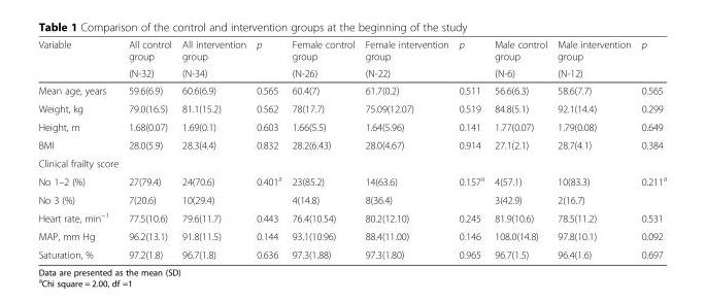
<table><thead><tr><td rowspan="2">Variable</td><td rowspan="2">All control group (N-32)</td><td rowspan="2">All intervention group (N-34)</td><td rowspan="2">p</td><td rowspan="2">Female control group (N-26)</td><td rowspan="2">Female intervention group (N-22)</td><td rowspan="2">p</td><td rowspan="2">Male control group (N-6)</td><td rowspan="2">Male intervention group (N-12)</td><td rowspan="2">p</td></tr><tr></tr></thead><tbody><tr><td>Mean age, years</td><td>59.6(6.9)</td><td>60.6(6.9)</td><td>0.565</td><td>60.4(7)</td><td>61.7(0.2)</td><td>0.511</td><td>56.6(6.3)</td><td>58.6(7.7)</td><td>0.565</td></tr><tr><td>Weight, kg</td><td>79.0(16.5)</td><td>81.1(15.2)</td><td>0.562</td><td>78(17.7)</td><td>75.09(12.07)</td><td>0.519</td><td>84.8(5.1)</td><td>92.1(14.4)</td><td>0.299</td></tr><tr><td>Height, m</td><td>1.68(0.07)</td><td>1.69(0.1)</td><td>0.603</td><td>1.66(5.5)</td><td>1.64(5.96)</td><td>0.141</td><td>1.77(0.07)</td><td>1.79(0.08)</td><td>0.649</td></tr><tr><td>BMI</td><td>28.0(5.9)</td><td>28.3(4.4)</td><td>0.832</td><td>28.2(6.43)</td><td>28.0(4.67)</td><td>0.914</td><td>27.1(2.1)</td><td>28.7(4.1)</td><td>0.384</td></tr><tr><td colspan="10">Clinical frailty score</td></tr><tr><td>No 1–2 (%)</td><td>27(79.4)</td><td>24(70.6)</td><td>0.401<sup>a</sup></td><td>23(85.2)</td><td>14(63.6)</td><td>0.157<sup>a</sup></td><td>4(57.1)</td><td>10(83.3)</td><td>0.211<sup>a</sup></td></tr><tr><td>No 3 (%)</td><td>7(20.6)</td><td>10(29.4)</td><td></td><td>4(14.8)</td><td>8(36.4)</td><td></td><td>3(42.9)</td><td>2(16.7)</td><td></td></tr><tr><td>Heart rate, min<sup>−1</sup></td><td>77.5(10.6)</td><td>79.6(11.7)</td><td>0.443</td><td>76.4(10.54)</td><td>80.2(12.10)</td><td>0.245</td><td>81.9(10.6)</td><td>78.5(11.2)</td><td>0.531</td></tr><tr><td>MAP, mm Hg</td><td>96.2(13.1)</td><td>91.8(11.5)</td><td>0.144</td><td>93.1(10.96)</td><td>88.4(11.00)</td><td>0.146</td><td>108.0(14.8)</td><td>97.8(10.1)</td><td>0.092</td></tr><tr><td>Saturation, %</td><td>97.2(1.8)</td><td>96.7(1.8)</td><td>0.636</td><td>97.3(1.88)</td><td>97.3(1.80)</td><td>0.965</td><td>96.7(1.5)</td><td>96.4(1.6)</td><td>0.697</td></tr></tbody></table>